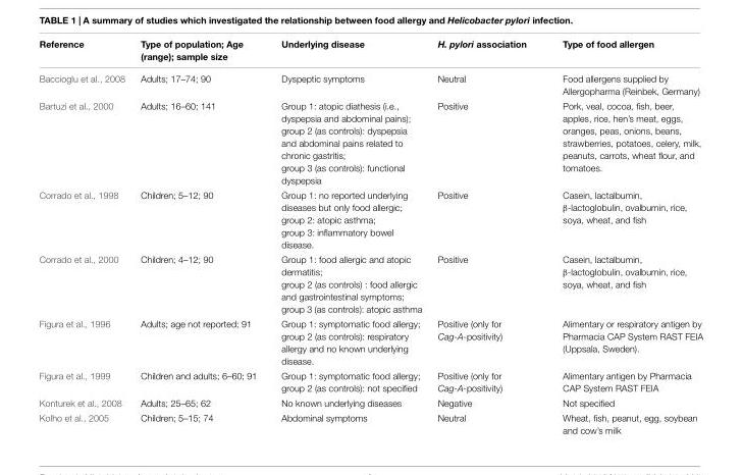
<table><thead><tr><td>Reference</td><td>Type of population; Age (range); sample size</td><td>Underlying disease</td><td>H. pylori association</td><td>Type of food allergen</td></tr></thead><tbody><tr><td>Baccioglu et al., 2008</td><td>Adults; 17–74; 90</td><td>Dyspeptic symptoms</td><td>Neutral</td><td>Food allergens supplied by Allergopharma (Reinbek, Germany)</td></tr><tr><td>Bartuzi et al., 2000</td><td>Adults; 16–60; 141</td><td>Group 1: atopic diathesis (i.e., dyspepsia and abdominal pains); group 2 (as controls): dyspepsia and abdominal pains related to chronic gastritis; group 3 (as controls): functional dyspepsia</td><td>Positive</td><td>Pork, veal, cocoa, fish, beer, apples, rice, hen’s meat, eggs, oranges, peas, onions, beans, strawberries, potatoes, celery, milk, peanuts, carrots, wheat flour, and tomatoes.</td></tr><tr><td>Corrado et al., 1998</td><td>Children; 5–12; 90</td><td>Group 1: no reported underlying diseases but only food allergic; group 2: atopic asthma; group 3: inflammatory bowel disease.</td><td>Positive</td><td>Casein, lactalbumin, β-lactoglobulin, ovalbumin, rice, soya, wheat, and fish</td></tr><tr><td>Corrado et al., 2000</td><td>Children; 4–12; 90</td><td>Group 1: food allergic and atopic dermatitis; group 2 (as controls) : food allergic and gastrointestinal symptoms; group 3 (as controls): atopic asthma</td><td>Positive</td><td>Casein, lactalbumin, β-lactoglobulin, ovalbumin, rice, soya, wheat, and fish</td></tr><tr><td>Figura et al., 1996</td><td>Adults; age not reported; 91</td><td>Group 1: symptomatic food allergy; group 2 (as controls): respiratory allergy and no known underlying disease.</td><td>Positive (only for Cag-A-positivity)</td><td>Alimentary or respiratory antigen by Pharmacia CAP System RAST FEIA (Uppsala, Sweden).</td></tr><tr><td>Figura et al., 1999</td><td>Children and adults; 6–60; 91</td><td>Group 1: symptomatic food allergy; group 2 (as controls): not specified</td><td>Positive (only for Cag-A-positivity)</td><td>Alimentary antigen by Pharmacia CAP System RAST FEIA</td></tr><tr><td>Konturek et al., 2008</td><td>Adults; 25–65; 62</td><td>No known underlying diseases</td><td>Negative</td><td>Not specified</td></tr><tr><td>Kolho et al., 2005</td><td>Children; 5–15; 74</td><td>Abdominal symptoms</td><td>Neutral</td><td>Wheat, fish, peanut, egg, soybean and cow’s milk</td></tr></tbody></table>